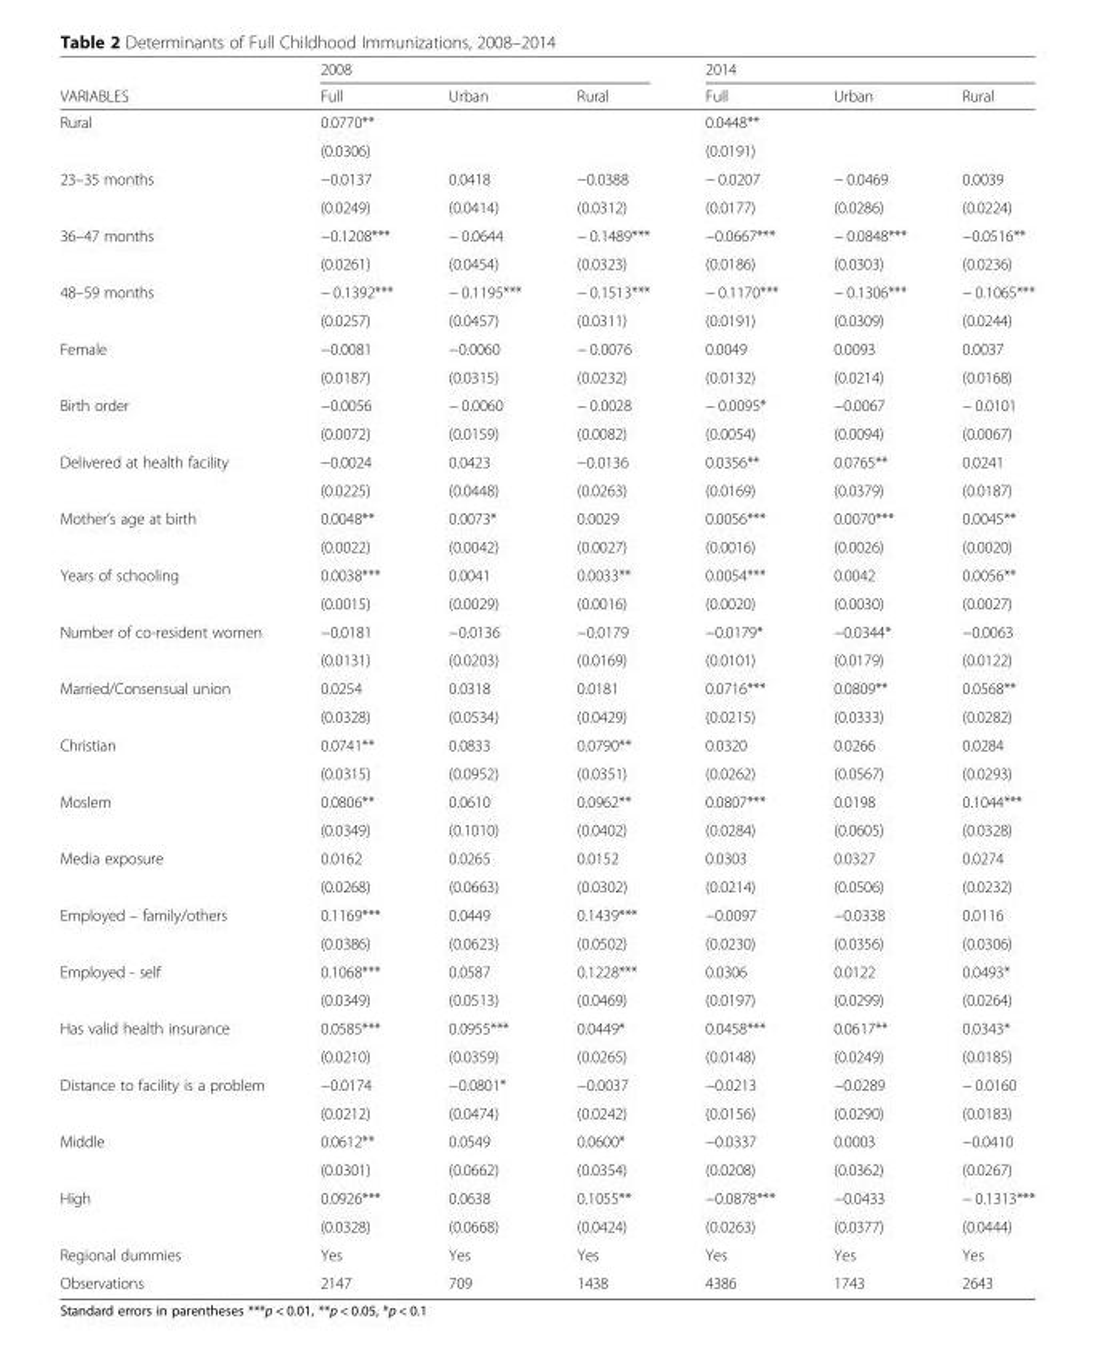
<table><thead><tr><td rowspan="2">VARIABLES</td><td colspan="3">2008</td><td colspan="3">2014</td></tr><tr><td>Full</td><td>Urban</td><td>Rural</td><td>Full</td><td>Urban</td><td>Rural</td></tr></thead><tbody><tr><td rowspan="2">Rural</td><td>0.0770**</td><td></td><td></td><td>0.0448**</td><td></td><td></td></tr><tr><td>(0.0306)</td><td></td><td></td><td>(0.0191)</td><td></td><td></td></tr><tr><td rowspan="2">23–35 months</td><td>−0.0137</td><td>0.0418</td><td>−0.0388</td><td>− 0.0207</td><td>− 0.0469</td><td>0.0039</td></tr><tr><td>(0.0249)</td><td>(0.0414)</td><td>(0.0312)</td><td>(0.0177)</td><td>(0.0286)</td><td>(0.0224)</td></tr><tr><td rowspan="2">36–47 months</td><td>−0.1208***</td><td>− 0.0644</td><td>− 0.1489***</td><td>−0.0667***</td><td>− 0.0848***</td><td>−0.0516**</td></tr><tr><td>(0.0261)</td><td>(0.0454)</td><td>(0.0323)</td><td>(0.0186)</td><td>(0.0303)</td><td>(0.0236)</td></tr><tr><td rowspan="2">48–59 months</td><td>− 0.1392***</td><td>− 0.1195***</td><td>− 0.1513***</td><td>− 0.1170***</td><td>− 0.1306***</td><td>− 0.1065***</td></tr><tr><td>(0.0257)</td><td>(0.0457)</td><td>(0.0311)</td><td>(0.0191)</td><td>(0.0309)</td><td>(0.0244)</td></tr><tr><td rowspan="2">Female</td><td>−0.0081</td><td>−0.0060</td><td>− 0.0076</td><td>0.0049</td><td>0.0093</td><td>0.0037</td></tr><tr><td>(0.0187)</td><td>(0.0315)</td><td>(0.0232)</td><td>(0.0132)</td><td>(0.0214)</td><td>(0.0168)</td></tr><tr><td rowspan="2">Birth order</td><td>−0.0056</td><td>− 0.0060</td><td>− 0.0028</td><td>− 0.0095*</td><td>−0.0067</td><td>− 0.0101</td></tr><tr><td>(0.0072)</td><td>(0.0159)</td><td>(0.0082)</td><td>(0.0054)</td><td>(0.0094)</td><td>(0.0067)</td></tr><tr><td rowspan="2">Delivered at health facility</td><td>−0.0024</td><td>0.0423</td><td>−0.0136</td><td>0.0356**</td><td>0.0765**</td><td>0.0241</td></tr><tr><td>(0.0225)</td><td>(0.0448)</td><td>(0.0263)</td><td>(0.0169)</td><td>(0.0379)</td><td>(0.0187)</td></tr><tr><td rowspan="2">Mother’s age at birth</td><td>0.0048**</td><td>0.0073*</td><td>0.0029</td><td>0.0056***</td><td>0.0070***</td><td>0.0045**</td></tr><tr><td>(0.0022)</td><td>(0.0042)</td><td>(0.0027)</td><td>(0.0016)</td><td>(0.0026)</td><td>(0.0020)</td></tr><tr><td rowspan="2">Years of schooling</td><td>0.0038***</td><td>0.0041</td><td>0.0033**</td><td>0.0054***</td><td>0.0042</td><td>0.0056**</td></tr><tr><td>(0.0015)</td><td>(0.0029)</td><td>(0.0016)</td><td>(0.0020)</td><td>(0.0030)</td><td>(0.0027)</td></tr><tr><td rowspan="2">Number of co-resident women</td><td>−0.0181</td><td>−0.0136</td><td>−0.0179</td><td>−0.0179*</td><td>−0.0344*</td><td>−0.0063</td></tr><tr><td>(0.0131)</td><td>(0.0203)</td><td>(0.0169)</td><td>(0.0101)</td><td>(0.0179)</td><td>(0.0122)</td></tr><tr><td rowspan="2">Married/Consensual union</td><td>0.0254</td><td>0.0318</td><td>0.0181</td><td>0.0716***</td><td>0.0809**</td><td>0.0568**</td></tr><tr><td>(0.0328)</td><td>(0.0534)</td><td>(0.0429)</td><td>(0.0215)</td><td>(0.0333)</td><td>(0.0282)</td></tr><tr><td rowspan="2">Christian</td><td>0.0741**</td><td>0.0833</td><td>0.0790**</td><td>0.0320</td><td>0.0266</td><td>0.0284</td></tr><tr><td>(0.0315)</td><td>(0.0952)</td><td>(0.0351)</td><td>(0.0262)</td><td>(0.0567)</td><td>(0.0293)</td></tr><tr><td rowspan="2">Moslem</td><td>0.0806**</td><td>0.0610</td><td>0.0962**</td><td>0.0807***</td><td>0.0198</td><td>0.1044***</td></tr><tr><td>(0.0349)</td><td>(0.1010)</td><td>(0.0402)</td><td>(0.0284)</td><td>(0.0605)</td><td>(0.0328)</td></tr><tr><td rowspan="2">Media exposure</td><td>0.0162</td><td>0.0265</td><td>0.0152</td><td>0.0303</td><td>0.0327</td><td>0.0274</td></tr><tr><td>(0.0268)</td><td>(0.0663)</td><td>(0.0302)</td><td>(0.0214)</td><td>(0.0506)</td><td>(0.0232)</td></tr><tr><td rowspan="2">Employed – family/others</td><td>0.1169***</td><td>0.0449</td><td>0.1439***</td><td>−0.0097</td><td>−0.0338</td><td>0.0116</td></tr><tr><td>(0.0386)</td><td>(0.0623)</td><td>(0.0502)</td><td>(0.0230)</td><td>(0.0356)</td><td>(0.0306)</td></tr><tr><td rowspan="2">Employed - self</td><td>0.1068***</td><td>0.0587</td><td>0.1228***</td><td>0.0306</td><td>0.0122</td><td>0.0493*</td></tr><tr><td>(0.0349)</td><td>(0.0513)</td><td>(0.0469)</td><td>(0.0197)</td><td>(0.0299)</td><td>(0.0264)</td></tr><tr><td rowspan="2">Has valid health insurance</td><td>0.0585***</td><td>0.0955***</td><td>0.0449*</td><td>0.0458***</td><td>0.0617**</td><td>0.0343*</td></tr><tr><td>(0.0210)</td><td>(0.0359)</td><td>(0.0265)</td><td>(0.0148)</td><td>(0.0249)</td><td>(0.0185)</td></tr><tr><td rowspan="2">Distance to facility is a problem</td><td>−0.0174</td><td>−0.0801*</td><td>−0.0037</td><td>−0.0213</td><td>−0.0289</td><td>− 0.0160</td></tr><tr><td>(0.0212)</td><td>(0.0474)</td><td>(0.0242)</td><td>(0.0156)</td><td>(0.0290)</td><td>(0.0183)</td></tr><tr><td rowspan="2">Middle</td><td>0.0612**</td><td>0.0549</td><td>0.0600*</td><td>−0.0337</td><td>0.0003</td><td>−0.0410</td></tr><tr><td>(0.0301)</td><td>(0.0662)</td><td>(0.0354)</td><td>(0.0208)</td><td>(0.0362)</td><td>(0.0267)</td></tr><tr><td rowspan="2">High</td><td>0.0926***</td><td>0.0638</td><td>0.1055**</td><td>−0.0878***</td><td>−0.0433</td><td>− 0.1313***</td></tr><tr><td>(0.0328)</td><td>(0.0668)</td><td>(0.0424)</td><td>(0.0263)</td><td>(0.0377)</td><td>(0.0444)</td></tr><tr><td>Regional dummies</td><td>Yes</td><td>Yes</td><td>Yes</td><td>Yes</td><td>Yes</td><td>Yes</td></tr><tr><td>Observations</td><td>2147</td><td>709</td><td>1438</td><td>4386</td><td>1743</td><td>2643</td></tr></tbody></table>